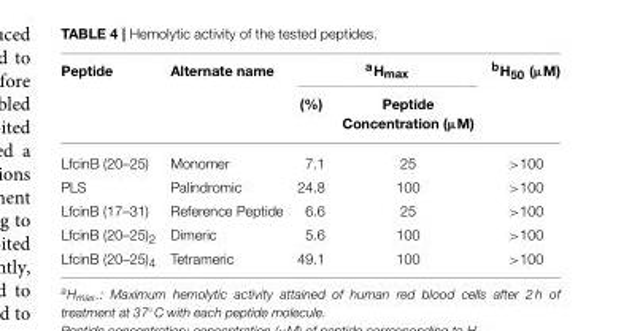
<table><thead><tr><td rowspan="2">Peptide</td><td rowspan="2">Alternate name</td><td colspan="2"><sup>a</sup>H<sub>max</sub></td><td rowspan="2"><sup>b</sup>H<sub>50</sub> (µM)</td></tr><tr><td>(%)</td><td>Peptide Concentration (µM)</td></tr></thead><tbody><tr><td>LfcinB (20–25)</td><td>Monomer</td><td>7.1</td><td>25</td><td>&gt;100</td></tr><tr><td>PLS</td><td>Palindromic</td><td>24.8</td><td>100</td><td>&gt;100</td></tr><tr><td>LfcinB (17–31)</td><td>Reference Peptide</td><td>6.6</td><td>25</td><td>&gt;100</td></tr><tr><td>LfcinB (20–25)<sub>2</sub></td><td>Dimeric</td><td>5.6</td><td>100</td><td>&gt;100</td></tr><tr><td>LfcinB (20–25)<sub>4</sub></td><td>Tetrameric</td><td>49.1</td><td>100</td><td>&gt;100</td></tr></tbody></table>